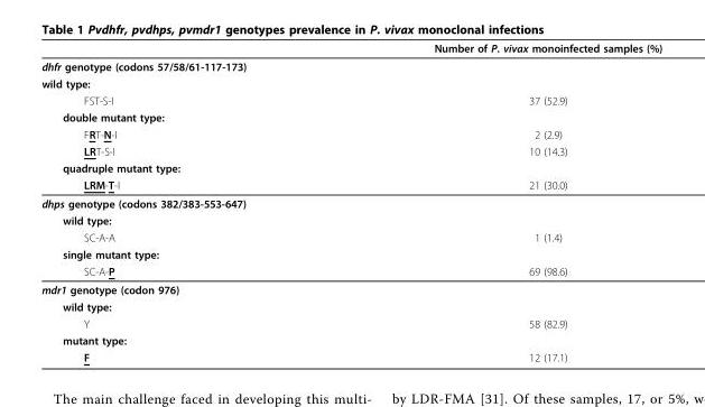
<table><thead><tr><td></td><td>Number of P. vivax monoinfected samples (%)</td></tr></thead><tbody><tr><td colspan="2">dhfr genotype (codons 57/58/61-117-173)</td></tr><tr><td colspan="2">wild type:</td></tr><tr><td>FST-S-I</td><td>37 (52.9)</td></tr><tr><td colspan="2">double mutant type:</td></tr><tr><td>FRT-N-I</td><td>2 (2.9)</td></tr><tr><td>LRT-S-I</td><td>10 (14.3)</td></tr><tr><td colspan="2">quadruple mutant type:</td></tr><tr><td>LRM-T-I</td><td>21 (30.0)</td></tr><tr><td colspan="2">dhps genotype (codons 382/383-553-647)</td></tr><tr><td colspan="2">wild type:</td></tr><tr><td>SC-A-A</td><td>1 (1.4)</td></tr><tr><td colspan="2">single mutant type:</td></tr><tr><td>SC-A-P</td><td>69 (98.6)</td></tr><tr><td colspan="2">mdr1 genotype (codon 976)</td></tr><tr><td colspan="2">wild type:</td></tr><tr><td>Y</td><td>58 (82.9)</td></tr><tr><td colspan="2">mutant type:</td></tr><tr><td>F</td><td>12 (17.1)</td></tr></tbody></table>